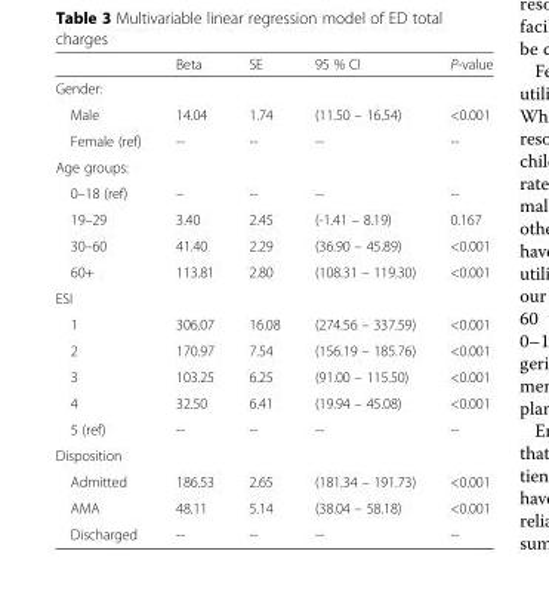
<table><thead><tr><td></td><td>Beta</td><td>SE</td><td>95 % CI</td><td>P-value</td></tr></thead><tbody><tr><td colspan="5">Gender:</td></tr><tr><td>Male</td><td>14.04</td><td>1.74</td><td>(11.50 – 16.54)</td><td>&lt;0.001</td></tr><tr><td>Female (ref)</td><td>--</td><td>--</td><td>--</td><td>--</td></tr><tr><td colspan="5">Age groups:</td></tr><tr><td>0–18 (ref)</td><td>–</td><td>--</td><td>--</td><td>--</td></tr><tr><td>19–29</td><td>3.40</td><td>2.45</td><td>(-1.41 – 8.19)</td><td>0.167</td></tr><tr><td>30–60</td><td>41.40</td><td>2.29</td><td>(36.90 – 45.89)</td><td>&lt;0.001</td></tr><tr><td>60+</td><td>113.81</td><td>2.80</td><td>(108.31 – 119.30)</td><td>&lt;0.001</td></tr><tr><td colspan="5">ESI</td></tr><tr><td>1</td><td>306.07</td><td>16.08</td><td>(274.56 – 337.59)</td><td>&lt;0.001</td></tr><tr><td>2</td><td>170.97</td><td>7.54</td><td>(156.19 – 185.76)</td><td>&lt;0.001</td></tr><tr><td>3</td><td>103.25</td><td>6.25</td><td>(91.00 – 115.50)</td><td>&lt;0.001</td></tr><tr><td>4</td><td>32.50</td><td>6.41</td><td>(19.94 – 45.08)</td><td>&lt;0.001</td></tr><tr><td>5 (ref)</td><td>--</td><td>--</td><td>--</td><td>--</td></tr><tr><td colspan="5">Disposition</td></tr><tr><td>Admitted</td><td>186.53</td><td>2.65</td><td>(181.34 – 191.73)</td><td>&lt;0.001</td></tr><tr><td>AMA</td><td>48.11</td><td>5.14</td><td>(38.04 – 58.18)</td><td>&lt;0.001</td></tr><tr><td>Discharged</td><td>--</td><td>--</td><td>--</td><td>--</td></tr></tbody></table>